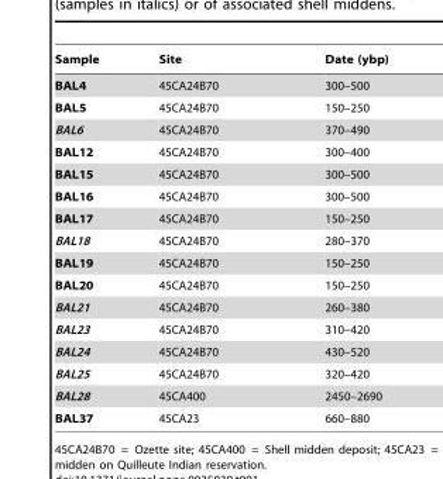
<table><thead><tr><td>Sample</td><td>Site</td><td>Date (ybp)</td></tr></thead><tbody><tr><td>BAL4</td><td>45CA24B70</td><td>300–500</td></tr><tr><td>BAL5</td><td>45CA24B70</td><td>150–250</td></tr><tr><td>BAL6</td><td>45CA24B70</td><td>370–490</td></tr><tr><td>BAL12</td><td>45CA24B70</td><td>300–400</td></tr><tr><td>BAL15</td><td>45CA24B70</td><td>300–500</td></tr><tr><td>BAL16</td><td>45CA24B70</td><td>300–500</td></tr><tr><td>BAL17</td><td>45CA24B70</td><td>150–250</td></tr><tr><td>BAL18</td><td>45CA24B70</td><td>280–370</td></tr><tr><td>BAL19</td><td>45CA24B70</td><td>150–250</td></tr><tr><td>BAL20</td><td>45CA24B70</td><td>150–250</td></tr><tr><td>BAL21</td><td>45CA24B70</td><td>260–380</td></tr><tr><td>BAL23</td><td>45CA24B70</td><td>310–420</td></tr><tr><td>BAL24</td><td>45CA24B70</td><td>430–520</td></tr><tr><td>BAL25</td><td>45CA24B70</td><td>320–420</td></tr><tr><td>BAL28</td><td>45CA400</td><td>2450–2690</td></tr><tr><td>BAL37</td><td>45CA23</td><td>660–880</td></tr></tbody></table>